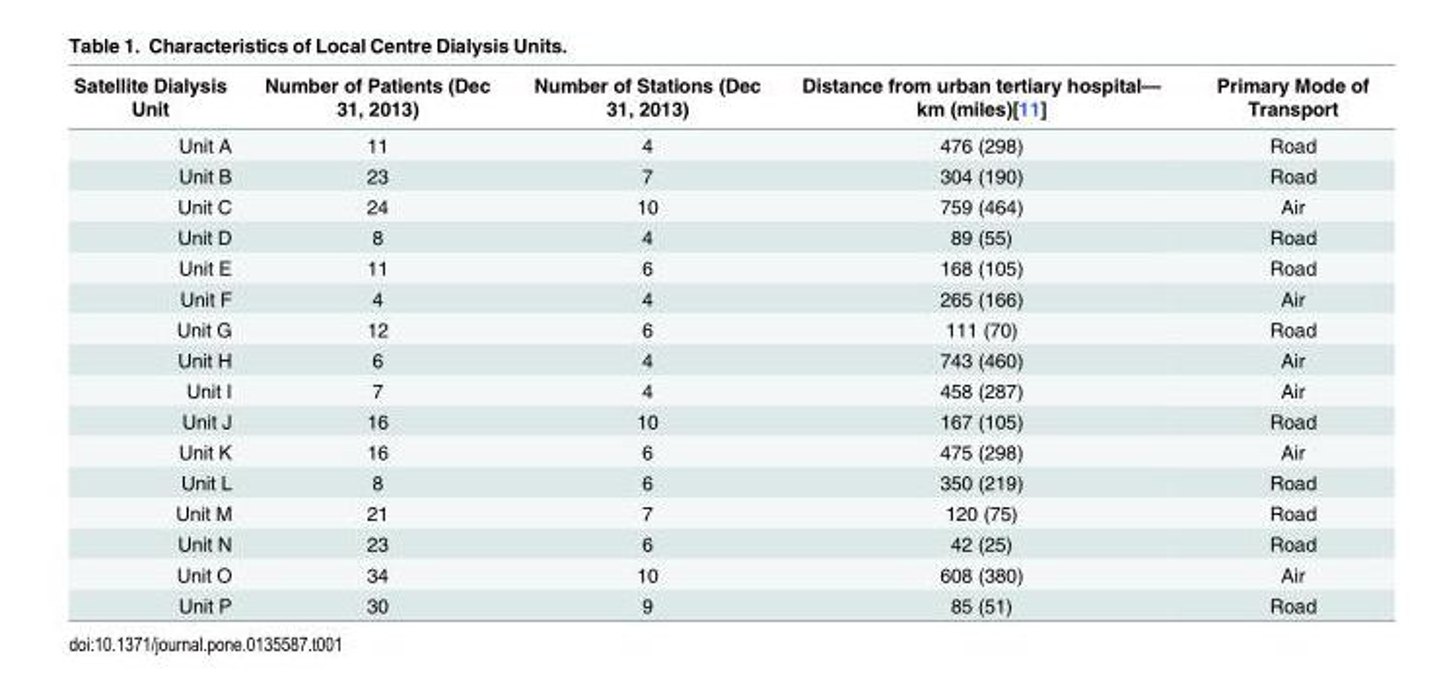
<table><thead><tr><td>Satellite Dialysis Unit</td><td>Number of Patients (Dec 31, 2013)</td><td>Number of Stations (Dec 31, 2013)</td><td>Distance from urban tertiary hospital— km (miles)[11]</td><td>Primary Mode of Transport</td></tr></thead><tbody><tr><td>Unit A</td><td>11</td><td>4</td><td>476 (298)</td><td>Road</td></tr><tr><td>Unit B</td><td>23</td><td>7</td><td>304 (190)</td><td>Road</td></tr><tr><td>Unit C</td><td>24</td><td>10</td><td>759 (464)</td><td>Air</td></tr><tr><td>Unit D</td><td>8</td><td>4</td><td>89 (55)</td><td>Road</td></tr><tr><td>Unit E</td><td>11</td><td>6</td><td>168 (105)</td><td>Road</td></tr><tr><td>Unit F</td><td>4</td><td>4</td><td>265 (166)</td><td>Air</td></tr><tr><td>Unit G</td><td>12</td><td>6</td><td>111 (70)</td><td>Road</td></tr><tr><td>Unit H</td><td>6</td><td>4</td><td>743 (460)</td><td>Air</td></tr><tr><td>Unit I</td><td>7</td><td>4</td><td>458 (287)</td><td>Air</td></tr><tr><td>Unit J</td><td>16</td><td>10</td><td>167 (105)</td><td>Road</td></tr><tr><td>Unit K</td><td>16</td><td>6</td><td>475 (298)</td><td>Air</td></tr><tr><td>Unit L</td><td>8</td><td>6</td><td>350 (219)</td><td>Road</td></tr><tr><td>Unit M</td><td>21</td><td>7</td><td>120 (75)</td><td>Road</td></tr><tr><td>Unit N</td><td>23</td><td>6</td><td>42 (25)</td><td>Road</td></tr><tr><td>Unit O</td><td>34</td><td>10</td><td>608 (380)</td><td>Air</td></tr><tr><td>Unit P</td><td>30</td><td>9</td><td>85 (51)</td><td>Road</td></tr></tbody></table>